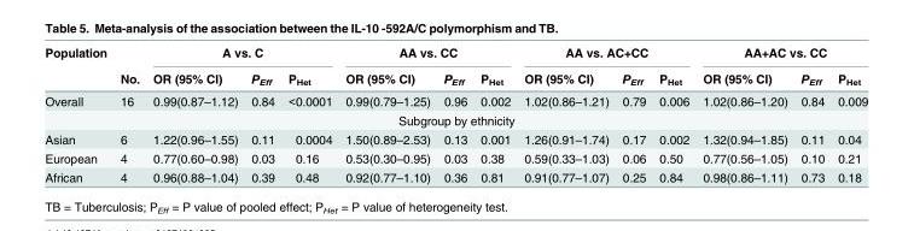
<table><thead><tr><td rowspan="2">Population</td><td rowspan="2">No.</td><td colspan="3">A vs. C</td><td colspan="3">AA vs. CC</td><td colspan="3">AA vs. AC+CC</td><td colspan="3">AA+AC vs. CC</td></tr><tr><td>OR (95% CI)</td><td>P<sub>Eff</sub></td><td>P<sub>Het</sub></td><td>OR (95% CI)</td><td>P<sub>Eff</sub></td><td>P<sub>Het</sub></td><td>OR (95% CI)</td><td>P<sub>Eff</sub></td><td>P<sub>Het</sub></td><td>OR (95% CI)</td><td>P<sub>Eff</sub></td><td>P<sub>Het</sub></td></tr></thead><tbody><tr><td>Overall</td><td>16</td><td>0.99(0.87–1.12)</td><td>0.84</td><td>&lt;0.0001</td><td>0.99(0.79–1.25)</td><td>0.96</td><td>0.002</td><td>1.02(0.86–1.21)</td><td>0.79</td><td>0.006</td><td>1.02(0.86–1.20)</td><td>0.84</td><td>0.009</td></tr><tr><td colspan="14">Subgroup by ethnicity</td></tr><tr><td>Asian</td><td>6</td><td>1.22(0.96–1.55)</td><td>0.11</td><td>0.0004</td><td>1.50(0.89–2.53)</td><td>0.13</td><td>0.001</td><td>1.26(0.91–1.74)</td><td>0.17</td><td>0.002</td><td>1.32(0.94–1.85)</td><td>0.11</td><td>0.04</td></tr><tr><td>European</td><td>4</td><td>0.77(0.60–0.98)</td><td>0.03</td><td>0.16</td><td>0.53(0.30–0.95)</td><td>0.03</td><td>0.38</td><td>0.59(0.33–1.03)</td><td>0.06</td><td>0.50</td><td>0.77(0.56–1.05)</td><td>0.10</td><td>0.21</td></tr><tr><td>African</td><td>4</td><td>0.96(0.88–1.04)</td><td>0.39</td><td>0.48</td><td>0.92(0.77–1.10)</td><td>0.36</td><td>0.81</td><td>0.91(0.77–1.07)</td><td>0.25</td><td>0.84</td><td>0.98(0.86–1.11)</td><td>0.73</td><td>0.18</td></tr></tbody></table>